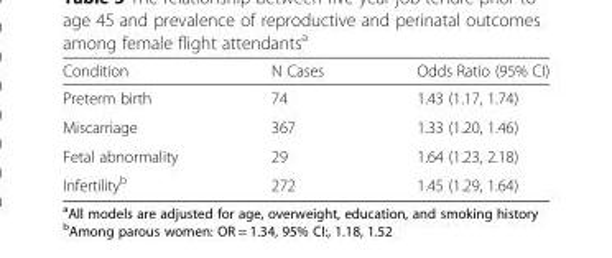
<table><thead><tr><td>Condition</td><td>N Cases</td><td>Odds Ratio (95% CI)</td></tr></thead><tbody><tr><td>Preterm birth</td><td>74</td><td>1.43 (1.17, 1.74)</td></tr><tr><td>Miscarriage</td><td>367</td><td>1.33 (1.20, 1.46)</td></tr><tr><td>Fetal abnormality</td><td>29</td><td>1.64 (1.23, 2.18)</td></tr><tr><td>Infertility<sup>b</sup></td><td>272</td><td>1.45 (1.29, 1.64)</td></tr></tbody></table>